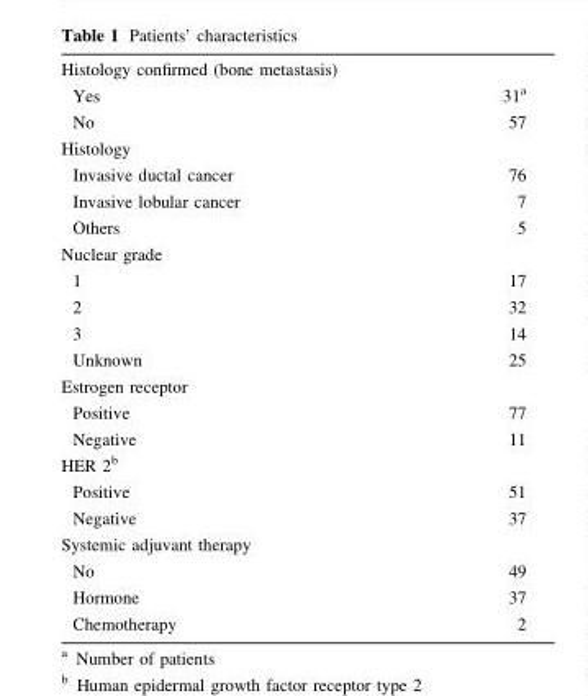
<table><tbody><tr><td colspan="2">Histology confirmed (bone metastasis)</td></tr><tr><td>Yes</td><td>31<sup>a</sup></td></tr><tr><td>No</td><td>57</td></tr><tr><td colspan="2">Histology</td></tr><tr><td>Invasive ductal cancer</td><td>76</td></tr><tr><td>Invasive lobular cancer</td><td>7</td></tr><tr><td>Others</td><td>5</td></tr><tr><td colspan="2">Nuclear grade</td></tr><tr><td>1</td><td>17</td></tr><tr><td>2</td><td>32</td></tr><tr><td>3</td><td>14</td></tr><tr><td>Unknown</td><td>25</td></tr><tr><td colspan="2">Estrogen receptor</td></tr><tr><td>Positive</td><td>77</td></tr><tr><td>Negative</td><td>11</td></tr><tr><td colspan="2">HER 2<sup>b</sup></td></tr><tr><td>Positive</td><td>51</td></tr><tr><td>Negative</td><td>37</td></tr><tr><td colspan="2">Systemic adjuvant therapy</td></tr><tr><td>No</td><td>49</td></tr><tr><td>Hormone</td><td>37</td></tr><tr><td>Chemotherapy</td><td>2</td></tr></tbody></table>